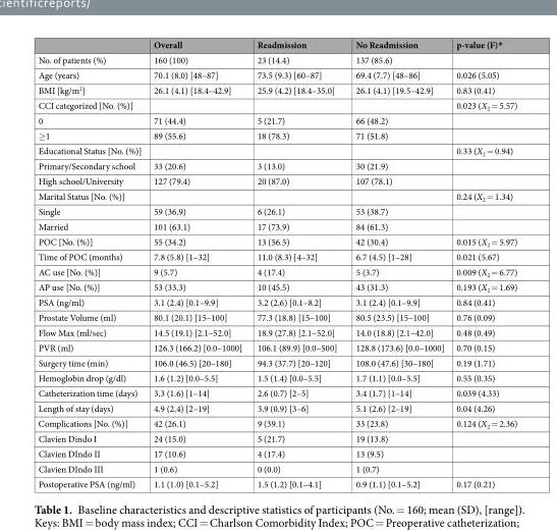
<table><thead><tr><td></td><td>Overall</td><td>Readmission</td><td>No Readmission</td><td>p-value (F)*</td></tr></thead><tbody><tr><td>No. of patients (%)</td><td>160 (100)</td><td>23 (14.4)</td><td>137 (85.6)</td><td></td></tr><tr><td>Age (years)</td><td>70.1 (8.0) [48–87]</td><td>73.5 (9.3) [60–87]</td><td>69.4 (7.7) [48–86]</td><td>0.026 (5.05)</td></tr><tr><td>BMI [kg/m<sup>2</sup>]</td><td>26.1 (4.1) [18.4–42.9]</td><td>25.9 (4.2) [18.4–35.0]</td><td>26.1 (4.1) [19.5–42.9]</td><td>0.83 (0.41)</td></tr><tr><td>CCI categorized [No. (%)]</td><td></td><td></td><td></td><td>0.023 (X<sub>2</sub> = 5.57)</td></tr><tr><td>0</td><td>71 (44.4)</td><td>5 (21.7)</td><td>66 (48.2)</td><td></td></tr><tr><td>≥1</td><td>89 (55.6)</td><td>18 (78.3)</td><td>71 (51.8)</td><td></td></tr><tr><td>Educational Status [No. (%)]</td><td></td><td></td><td></td><td>0.33 (X<sub>2</sub> = 0.94)</td></tr><tr><td>Primary/Secondary school</td><td>33 (20.6)</td><td>3 (13.0)</td><td>30 (21.9)</td><td></td></tr><tr><td>High school/University</td><td>127 (79.4)</td><td>20 (87.0)</td><td>107 (78.1)</td><td></td></tr><tr><td>Marital Status [No. (%)]</td><td></td><td></td><td></td><td>0.24 (X<sub>2</sub> = 1.34)</td></tr><tr><td>Single</td><td>59 (36.9)</td><td>6 (26.1)</td><td>53 (38.7)</td><td></td></tr><tr><td>Married</td><td>101 (63.1)</td><td>17 (73.9)</td><td>84 (61.3)</td><td></td></tr><tr><td>POC [No. (%)]</td><td>55 (34.2)</td><td>13 (56.5)</td><td>42 (30.4)</td><td>0.015 (X<sub>2</sub> = 5.97)</td></tr><tr><td>Time of POC (months)</td><td>7.8 (5.8) [1–32]</td><td>11.0 (8.3) [4–32]</td><td>6.7 (4.5) [1–28]</td><td>0.021 (5.67)</td></tr><tr><td>AC use [No. (%)]</td><td>9 (5.7)</td><td>4 (17.4)</td><td>5 (3.7)</td><td>0.009 (X<sub>2</sub> = 6.77)</td></tr><tr><td>AP use [No. (%)]</td><td>53 (33.3)</td><td>10 (45.5)</td><td>43 (31.3)</td><td>0.193 (X<sub>2</sub> = 1.69)</td></tr><tr><td>PSA (ng/ml)</td><td>3.1 (2.4) [0.1–9.9]</td><td>3.2 (2.6) [0.1–8.2]</td><td>3.1 (2.4) [0.1–9.9]</td><td>0.84 (0.41)</td></tr><tr><td>Prostate Volume (ml)</td><td>80.1 (20.1) [15–100]</td><td>77.3 (18.8) [15–100]</td><td>80.5 (23.5) [15–100]</td><td>0.76 (0.09)</td></tr><tr><td>Flow Max (ml/sec)</td><td>14.5 (19.1) [2.1–52.0]</td><td>18.9 (27.8) [2.1–52.0]</td><td>14.0 (18.8) [2.1–42.0]</td><td>0.48 (0.49)</td></tr><tr><td>PVR (ml)</td><td>126.3 (166.2) [0.0–1000]</td><td>106.1 (89.9) [0.0–500]</td><td>128.8 (173.6) [0.0–1000]</td><td>0.70 (0.15)</td></tr><tr><td>Surgery time (min)</td><td>106.0 (46.5) [20–180]</td><td>94.3 (37.7) [20–120]</td><td>108.0 (47.6) [30–180]</td><td>0.19 (1.71)</td></tr><tr><td>Hemoglobin drop (g/dl)</td><td>1.6 (1.2) [0.0–5.5]</td><td>1.5 (1.4) [0.0–5.5]</td><td>1.7 (1.1) [0.0–5.5]</td><td>0.55 (0.35)</td></tr><tr><td>Catheterization time (days)</td><td>3.3 (1.6) [1–14]</td><td>2.6 (0.7) [2–5]</td><td>3.4 (1.7) [1–14]</td><td>0.039 (4.33)</td></tr><tr><td>Length of stay (days)</td><td>4.9 (2.4) [2–19]</td><td>3.9 (0.9) [3–6]</td><td>5.1 (2.6) [2–19]</td><td>0.04 (4.26)</td></tr><tr><td>Complications [No. (%)]</td><td>42 (26.1)</td><td>9 (39.1)</td><td>33 (23.8)</td><td>0.124 (X<sub>2</sub> = 2.36)</td></tr><tr><td>Clavien Dindo I</td><td>24 (15.0)</td><td>5 (21.7)</td><td>19 (13.8)</td><td></td></tr><tr><td>Clavien DIndo II</td><td>17 (10.6)</td><td>4 (17.4)</td><td>13 (9.5)</td><td></td></tr><tr><td>Clavien DIndo III</td><td>1 (0.6)</td><td>0 (0.0)</td><td>1 (0.7)</td><td></td></tr><tr><td>Postoperative PSA (ng/ml)</td><td>1.1 (1.0) [0.1–5.2]</td><td>1.5 (1.2) [0.1–4.1]</td><td>0.9 (1.1) [0.1–5.2]</td><td>0.17 (0.21)</td></tr></tbody></table>